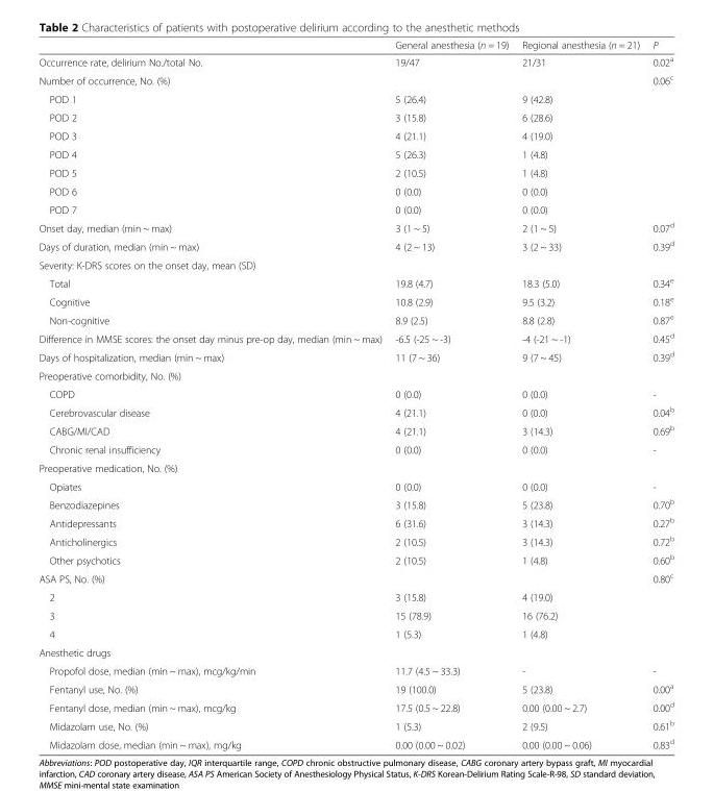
<table><thead><tr><td></td><td>General anesthesia (n = 19)</td><td>Regional anesthesia (n = 21)</td><td>P</td></tr></thead><tbody><tr><td>Occurrence rate, delirium No./total No.</td><td>19/47</td><td>21/31</td><td>0.02<sup>a</sup></td></tr><tr><td>Number of occurrence, No. (%)</td><td></td><td></td><td>0.06<sup>c</sup></td></tr><tr><td>POD 1</td><td>5 (26.4)</td><td>9 (42.8)</td><td></td></tr><tr><td>POD 2</td><td>3 (15.8)</td><td>6 (28.6)</td><td></td></tr><tr><td>POD 3</td><td>4 (21.1)</td><td>4 (19.0)</td><td></td></tr><tr><td>POD 4</td><td>5 (26.3)</td><td>1 (4.8)</td><td></td></tr><tr><td>POD 5</td><td>2 (10.5)</td><td>1 (4.8)</td><td></td></tr><tr><td>POD 6</td><td>0 (0.0)</td><td>0 (0.0)</td><td></td></tr><tr><td>POD 7</td><td>0 (0.0)</td><td>0 (0.0)</td><td></td></tr><tr><td>Onset day, median (min ~ max)</td><td>3 (1 ~ 5)</td><td>2 (1 ~ 5)</td><td>0.07<sup>d</sup></td></tr><tr><td>Days of duration, median (min ~ max)</td><td>4 (2 ~ 13)</td><td>3 (2 ~ 33)</td><td>0.39<sup>d</sup></td></tr><tr><td colspan="4">Severity: K-DRS scores on the onset day, mean (SD)</td></tr><tr><td>Total</td><td>19.8 (4.7)</td><td>18.3 (5.0)</td><td>0.34<sup>e</sup></td></tr><tr><td>Cognitive</td><td>10.8 (2.9)</td><td>9.5 (3.2)</td><td>0.18<sup>e</sup></td></tr><tr><td>Non-cognitive</td><td>8.9 (2.5)</td><td>8.8 (2.8)</td><td>0.87<sup>e</sup></td></tr><tr><td>Difference in MMSE scores: the onset day minus pre-op day, median (min ~ max)</td><td>-6.5 (-25 ~ -3)</td><td>-4 (-21 ~ -1)</td><td>0.45<sup>d</sup></td></tr><tr><td>Days of hospitalization, median (min ~ max)</td><td>11 (7 ~ 36)</td><td>9 (7 ~ 45)</td><td>0.39<sup>d</sup></td></tr><tr><td colspan="4">Preoperative comorbidity, No. (%)</td></tr><tr><td>COPD</td><td>0 (0.0)</td><td>0 (0.0)</td><td>-</td></tr><tr><td>Cerebrovascular disease</td><td>4 (21.1)</td><td>0 (0.0)</td><td>0.04<sup>b</sup></td></tr><tr><td>CABG/MI/CAD</td><td>4 (21.1)</td><td>3 (14.3)</td><td>0.69<sup>b</sup></td></tr><tr><td>Chronic renal insufficiency</td><td>0 (0.0)</td><td>0 (0.0)</td><td>-</td></tr><tr><td colspan="4">Preoperative medication, No. (%)</td></tr><tr><td>Opiates</td><td>0 (0.0)</td><td>0 (0.0)</td><td>-</td></tr><tr><td>Benzodiazepines</td><td>3 (15.8)</td><td>5 (23.8)</td><td>0.70<sup>b</sup></td></tr><tr><td>Antidepressants</td><td>6 (31.6)</td><td>3 (14.3)</td><td>0.27<sup>b</sup></td></tr><tr><td>Anticholinergics</td><td>2 (10.5)</td><td>3 (14.3)</td><td>0.72<sup>b</sup></td></tr><tr><td>Other psychotics</td><td>2 (10.5)</td><td>1 (4.8)</td><td>0.60<sup>b</sup></td></tr><tr><td>ASA PS, No. (%)</td><td></td><td></td><td>0.80<sup>c</sup></td></tr><tr><td>2</td><td>3 (15.8)</td><td>4 (19.0)</td><td></td></tr><tr><td>3</td><td>15 (78.9)</td><td>16 (76.2)</td><td></td></tr><tr><td>4</td><td>1 (5.3)</td><td>1 (4.8)</td><td></td></tr><tr><td colspan="4">Anesthetic drugs</td></tr><tr><td>Propofol dose, median (min ~ max), mcg/kg/min</td><td>11.7 (4.5 ~ 33.3)</td><td>-</td><td>-</td></tr><tr><td>Fentanyl use, No. (%)</td><td>19 (100.0)</td><td>5 (23.8)</td><td>0.00<sup>a</sup></td></tr><tr><td>Fentanyl dose, median (min ~ max), mcg/kg</td><td>17.5 (0.5 ~ 22.8)</td><td>0.00 (0.00 ~ 2.7)</td><td>0.00<sup>d</sup></td></tr><tr><td>Midazolam use, No. (%)</td><td>1 (5.3)</td><td>2 (9.5)</td><td>0.61<sup>b</sup></td></tr><tr><td>Midazolam dose, median (min ~ max), mg/kg</td><td>0.00 (0.00 ~ 0.02)</td><td>0.00 (0.00 ~ 0.06)</td><td>0.83<sup>d</sup></td></tr></tbody></table>